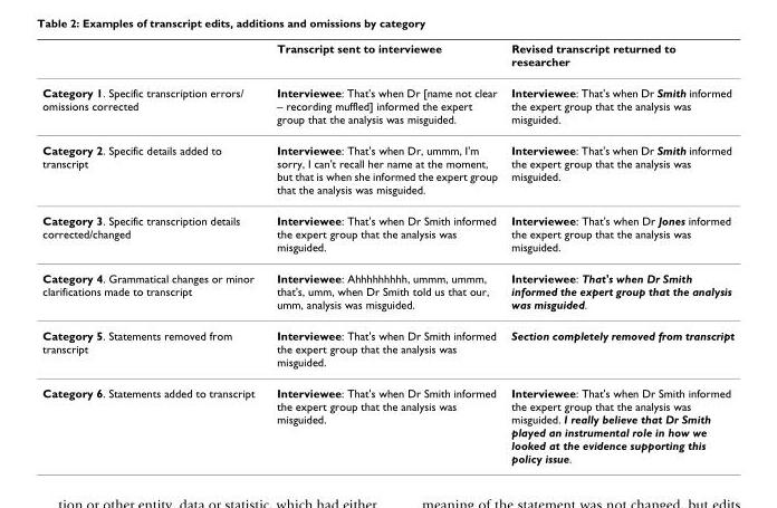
<table><thead><tr><td></td><td>Transcript sent to interviewee</td><td>Revised transcript returned to researcher</td></tr></thead><tbody><tr><td>Category 1. Specific transcription errors/ omissions corrected</td><td>Interviewee: That&#x27;s when Dr [name not clear – recording muffled] informed the expert group that the analysis was misguided.</td><td>Interviewee: That&#x27;s when Dr Smith informed the expert group that the analysis was misguided.</td></tr><tr><td>Category 2. Specific details added to transcript</td><td>Interviewee: That&#x27;s when Dr, ummm, I&#x27;m sorry, I can&#x27;t recall her name at the moment, but that is when she informed the expert group that the analysis was misguided.</td><td>Interviewee: That&#x27;s when Dr Smith informed the expert group that the analysis was misguided.</td></tr><tr><td>Category 3. Specific transcription details corrected/changed</td><td>Interviewee: That&#x27;s when Dr Smith informed the expert group that the analysis was misguided.</td><td>Interviewee: That&#x27;s when Dr Jones informed the expert group that the analysis was misguided.</td></tr><tr><td>Category 4. Grammatical changes or minor clarifications made to transcript</td><td>Interviewee: Ahhhhhhhhh, ummm, ummm, that&#x27;s, umm, when Dr Smith told us that our, umm, analysis was misguided.</td><td>Interviewee: That&#x27;s when Dr Smith informed the expert group that the analysis was misguided.</td></tr><tr><td>Category 5. Statements removed from transcript</td><td>Interviewee: That&#x27;s when Dr Smith informed the expert group that the analysis was misguided.</td><td>Section completely removed from transcript</td></tr><tr><td>Category 6. Statements added to transcript</td><td>Interviewee: That&#x27;s when Dr Smith informed the expert group that the analysis was misguided.</td><td>Interviewee: That&#x27;s when Dr Smith informed the expert group that the analysis was misguided. I really believe that Dr Smith played an instrumental role in how we looked at the evidence supporting this policy issue.</td></tr></tbody></table>